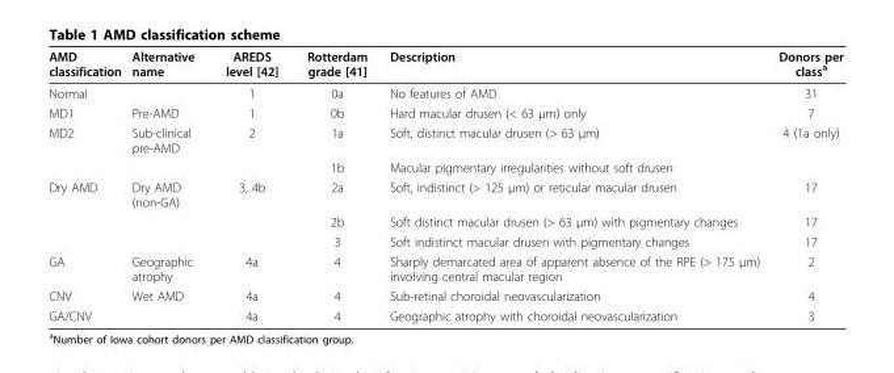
<table><thead><tr><td>AMD classification</td><td>Alternative name</td><td>AREDS level [42]</td><td>Rotterdam grade [41]</td><td>Description</td><td>Donors per class<sup>a</sup></td></tr></thead><tbody><tr><td>Normal</td><td></td><td>1</td><td>0a</td><td>No features of AMD</td><td>31</td></tr><tr><td>MD1</td><td>Pre-AMD</td><td>1</td><td>0b</td><td>Hard macular drusen (&lt; 63 μm) only</td><td>7</td></tr><tr><td rowspan="2">MD2</td><td>Sub-clinical pre-AMD</td><td>2</td><td>1a</td><td>Soft, distinct macular drusen (&gt; 63 μm)</td><td>4 (1a only)</td></tr><tr><td></td><td></td><td>1b</td><td>Macular pigmentary irregularities without soft drusen</td><td></td></tr><tr><td rowspan="3">Dry AMD</td><td>Dry AMD (non-GA)</td><td>3, 4b</td><td>2a</td><td>Soft, indistinct (&gt; 125 μm) or reticular macular drusen</td><td>17</td></tr><tr><td></td><td></td><td>2b</td><td>Soft distinct macular drusen (&gt; 63 μm) with pigmentary changes</td><td>17</td></tr><tr><td></td><td></td><td>3</td><td>Soft indistinct macular drusen with pigmentary changes</td><td>17</td></tr><tr><td>GA</td><td>Geographic atrophy</td><td>4a</td><td>4</td><td>Sharply demarcated area of apparent absence of the RPE (&gt; 175 μm) involving central macular region</td><td>2</td></tr><tr><td>CNV</td><td>Wet AMD</td><td>4a</td><td>4</td><td>Sub-retinal choroidal neovascularization</td><td>4</td></tr><tr><td>GA/CNV</td><td></td><td>4a</td><td>4</td><td>Geographic atrophy with choroidal neovascularization</td><td>3</td></tr></tbody></table>